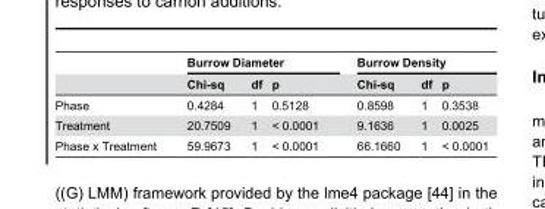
<table><thead><tr><td rowspan="2"></td><td colspan="3">Burrow Diameter</td><td colspan="3">Burrow Density</td></tr><tr><td>Chi-sq</td><td>df</td><td>p</td><td>Chi-sq</td><td>df</td><td>p</td></tr></thead><tbody><tr><td>Phase</td><td>0.4284</td><td>1</td><td>0.5128</td><td>0.8598</td><td>1</td><td>0.3538</td></tr><tr><td>Treatment</td><td>20.7509</td><td>1</td><td>&lt; 0.0001</td><td>9.1636</td><td>1</td><td>0.0025</td></tr><tr><td>Phase x Treatment</td><td>59.9673</td><td>1</td><td>&lt; 0.0001</td><td>66.1660</td><td>1</td><td>&lt; 0.0001</td></tr></tbody></table>